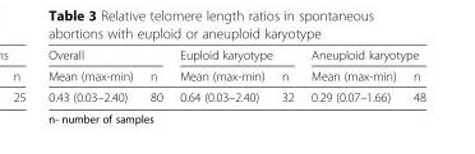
<table><thead><tr><td colspan="2">Overall</td><td colspan="2">Euploid karyotype</td><td colspan="2">Aneuploid karyotype</td></tr><tr><td>Mean (max-min)</td><td>n</td><td>Mean (max-min)</td><td>n</td><td>Mean (max-min)</td><td>n</td></tr></thead><tbody><tr><td>0.43 (0.03–2.40)</td><td>80</td><td>0.64 (0.03–2.40)</td><td>32</td><td>0.29 (0.07–1.66)</td><td>48</td></tr></tbody></table>